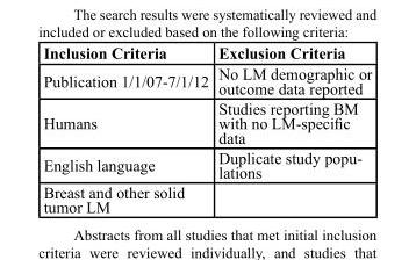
<table><thead><tr><td>Inclusion criteria</td><td>Exclusion criteria</td></tr></thead><tbody><tr><td>Publication 1/1/07-7/1/12</td><td>No LM demographic or outcome data reported</td></tr><tr><td>Humans</td><td>Studies reporting BM with no LM-specific data</td></tr><tr><td>English language</td><td>Duplicate study popu- lations</td></tr><tr><td>Breast and other solid tumor LM</td><td></td></tr></tbody></table>